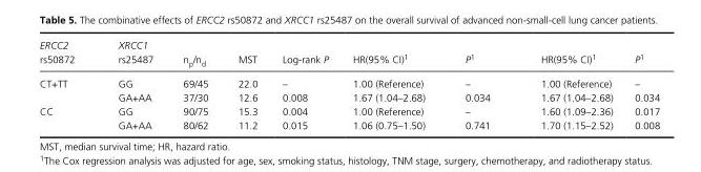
<table><thead><tr><td>ERCC2 rs50872</td><td>XRCC1 rs25487</td><td>n<sub>p</sub>/n<sub>d</sub></td><td>MST</td><td>Log- rank P</td><td>HR(95% CI)1</td><td>P1</td><td>HR(95% CI)1</td><td>P1</td></tr></thead><tbody><tr><td rowspan="2">CT+TT</td><td>GG</td><td>69/45</td><td>22.0</td><td>–</td><td>1.00 (Reference)</td><td>–</td><td>1.00 (Reference)</td><td>–</td></tr><tr><td>GA+AA</td><td>37/30</td><td>12.6</td><td>0.008</td><td>1.67 (1.04–2.68)</td><td>0.034</td><td>1.67 (1.04–2.68)</td><td>0.034</td></tr><tr><td rowspan="2">CC</td><td>GG</td><td>90/75</td><td>15.3</td><td>0.004</td><td>1.00 (Reference)</td><td>–</td><td>1.60 (1.09–2.36)</td><td>0.017</td></tr><tr><td>GA+AA</td><td>80/62</td><td>11.2</td><td>0.015</td><td>1.06 (0.75–1.50)</td><td>0.741</td><td>1.70 (1.15–2.52)</td><td>0.008</td></tr></tbody></table>